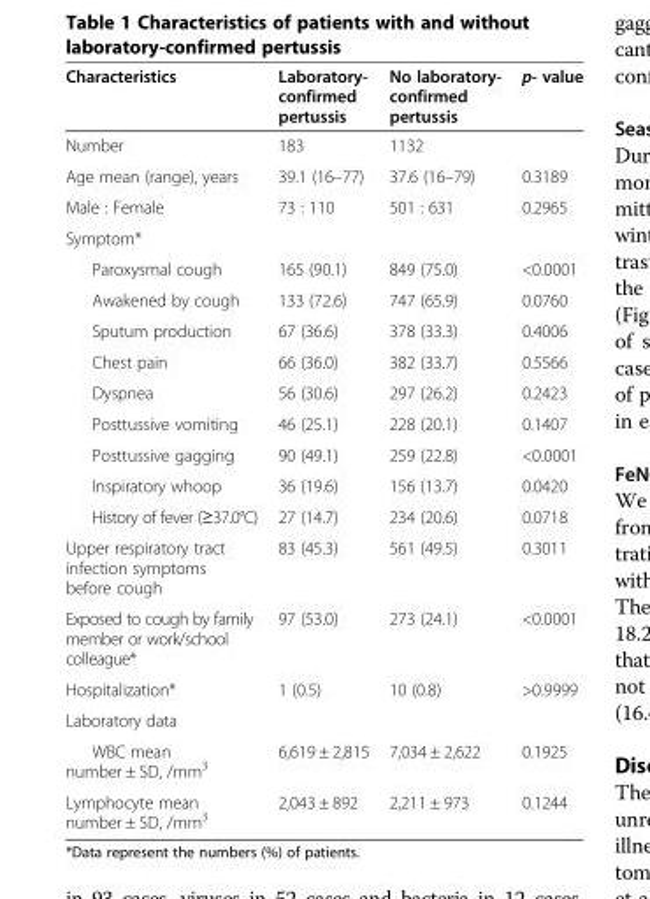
<table><thead><tr><td>Characteristics</td><td>Laboratory- confirmed pertussis</td><td>No laboratory- confirmed pertussis</td><td>p- value</td></tr></thead><tbody><tr><td>Number</td><td>183</td><td>1132</td><td></td></tr><tr><td>Age mean (range), years</td><td>39.1 (16–77)</td><td>37.6 (16–79)</td><td>0.3189</td></tr><tr><td>Male : Female</td><td>73 : 110</td><td>501 : 631</td><td>0.2965</td></tr><tr><td colspan="4">Symptom*</td></tr><tr><td>Paroxysmal cough</td><td>165 (90.1)</td><td>849 (75.0)</td><td>&lt;0.0001</td></tr><tr><td>Awakened by cough</td><td>133 (72.6)</td><td>747 (65.9)</td><td>0.0760</td></tr><tr><td>Sputum production</td><td>67 (36.6)</td><td>378 (33.3)</td><td>0.4006</td></tr><tr><td>Chest pain</td><td>66 (36.0)</td><td>382 (33.7)</td><td>0.5566</td></tr><tr><td>Dyspnea</td><td>56 (30.6)</td><td>297 (26.2)</td><td>0.2423</td></tr><tr><td>Posttussive vomiting</td><td>46 (25.1)</td><td>228 (20.1)</td><td>0.1407</td></tr><tr><td>Posttussive gagging</td><td>90 (49.1)</td><td>259 (22.8)</td><td>&lt;0.0001</td></tr><tr><td>Inspiratory whoop</td><td>36 (19.6)</td><td>156 (13.7)</td><td>0.0420</td></tr><tr><td>History of fever (≥37.0°C)</td><td>27 (14.7)</td><td>234 (20.6)</td><td>0.0718</td></tr><tr><td>Upper respiratory tract infection symptoms before cough</td><td>83 (45.3)</td><td>561 (49.5)</td><td>0.3011</td></tr><tr><td>Exposed to cough by family member or work/school colleague*</td><td>97 (53.0)</td><td>273 (24.1)</td><td>&lt;0.0001</td></tr><tr><td>Hospitalization*</td><td>1 (0.5)</td><td>10 (0.8)</td><td>&gt;0.9999</td></tr><tr><td colspan="4">Laboratory data</td></tr><tr><td>WBC mean number ± SD, /mm<sup>3</sup></td><td>6,619 ± 2,815</td><td>7,034 ± 2,622</td><td>0.1925</td></tr><tr><td>Lymphocyte mean number ± SD, /mm<sup>3</sup></td><td>2,043 ± 892</td><td>2,211 ± 973</td><td>0.1244</td></tr></tbody></table>